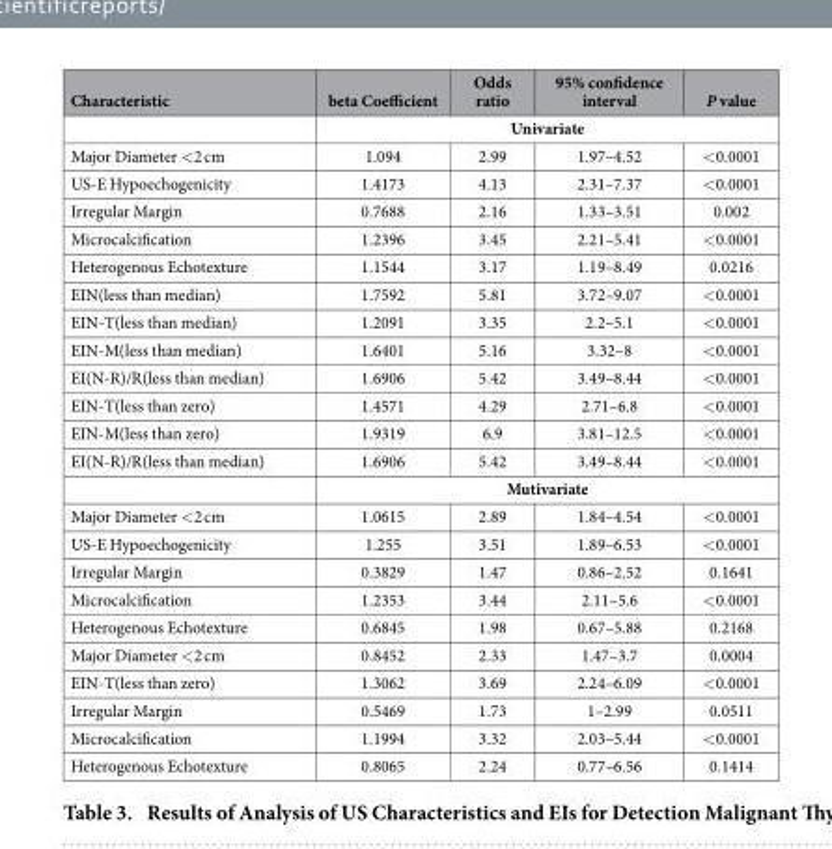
<table><thead><tr><td>Characteristic</td><td>beta Coefficient</td><td>Odds ratio</td><td>95% confidence interval</td><td>P value</td></tr></thead><tbody><tr><td></td><td colspan="4">Univariate</td></tr><tr><td>Major Diameter &lt; 2 cm</td><td>1.094</td><td>2.99</td><td>1.97–4.52</td><td>&lt; 0.0001</td></tr><tr><td>US-E Hypoechogenicity</td><td>1.4173</td><td>4.13</td><td>2.31–7.37</td><td>&lt; 0.0001</td></tr><tr><td>Irregular Margin</td><td>0.7688</td><td>2.16</td><td>1.33–3.51</td><td>0.002</td></tr><tr><td>Microcalcification</td><td>1.2396</td><td>3.45</td><td>2.21–5.41</td><td>&lt; 0.0001</td></tr><tr><td>Heterogenous Echotexture</td><td>1.1544</td><td>3.17</td><td>1.19–8.49</td><td>0.0216</td></tr><tr><td>EIN(less than median)</td><td>1.7592</td><td>5.81</td><td>3.72–9.07</td><td>&lt; 0.0001</td></tr><tr><td>EIN-T(less than median)</td><td>1.2091</td><td>3.35</td><td>2.2–5.1</td><td>&lt; 0.0001</td></tr><tr><td>EIN-M(less than median)</td><td>1.6401</td><td>5.16</td><td>3.32–8</td><td>&lt; 0.0001</td></tr><tr><td>EI(N-R)/R(less than median)</td><td>1.6906</td><td>5.42</td><td>3.49–8.44</td><td>&lt; 0.0001</td></tr><tr><td>EIN-T(less than zero)</td><td>1.4571</td><td>4.29</td><td>2.71–6.8</td><td>&lt; 0.0001</td></tr><tr><td>EIN-M(less than zero)</td><td>1.9319</td><td>6.9</td><td>3.81–12.5</td><td>&lt; 0.0001</td></tr><tr><td rowspan="2">EI(N-R)/R(less than median)</td><td>1.6906</td><td>5.42</td><td>3.49–8.44</td><td>&lt; 0.0001</td></tr><tr><td colspan="4">Mutivariate</td></tr><tr><td>Major Diameter &lt; 2 cm</td><td>1.0615</td><td>2.89</td><td>1.84–4.54</td><td>&lt; 0.0001</td></tr><tr><td>US-E Hypoechogenicity</td><td>1.255</td><td>3.51</td><td>1.89–6.53</td><td>&lt; 0.0001</td></tr><tr><td>Irregular Margin</td><td>0.3829</td><td>1.47</td><td>0.86–2.52</td><td>0.1641</td></tr><tr><td>Microcalcification</td><td>1.2353</td><td>3.44</td><td>2.11–5.6</td><td>&lt; 0.0001</td></tr><tr><td>Heterogenous Echotexture</td><td>0.6845</td><td>1.98</td><td>0.67–5.88</td><td>0.2168</td></tr><tr><td>Major Diameter &lt; 2 cm</td><td>0.8452</td><td>2.33</td><td>1.47–3.7</td><td>0.0004</td></tr><tr><td>EIN-T(less than zero)</td><td>1.3062</td><td>3.69</td><td>2.24–6.09</td><td>&lt; 0.0001</td></tr><tr><td>Irregular Margin</td><td>0.5469</td><td>1.73</td><td>1–2.99</td><td>0.0511</td></tr><tr><td>Microcalcification</td><td>1.1994</td><td>3.32</td><td>2.03–5.44</td><td>&lt; 0.0001</td></tr><tr><td>Heterogenous Echotexture</td><td>0.8065</td><td>2.24</td><td>0.77–6.56</td><td>0.1414</td></tr></tbody></table>